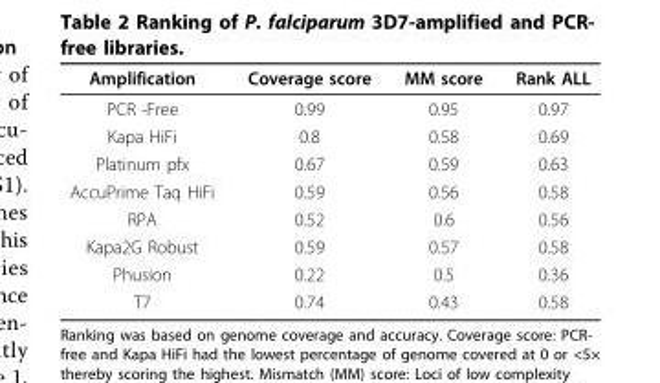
<table><thead><tr><td>Amplification</td><td>Coverage score</td><td>MM score</td><td>Rank ALL</td></tr></thead><tbody><tr><td>PCR -Free</td><td>0.99</td><td>0.95</td><td>0.97</td></tr><tr><td>Kapa HiFi</td><td>0.8</td><td>0.58</td><td>0.69</td></tr><tr><td>Platinum pfx</td><td>0.67</td><td>0.59</td><td>0.63</td></tr><tr><td>AccuPrime Taq HiFi</td><td>0.59</td><td>0.56</td><td>0.58</td></tr><tr><td>RPA</td><td>0.52</td><td>0.6</td><td>0.56</td></tr><tr><td>Kapa2G Robust</td><td>0.59</td><td>0.57</td><td>0.58</td></tr><tr><td>Phusion</td><td>0.22</td><td>0.5</td><td>0.36</td></tr><tr><td>T7</td><td>0.74</td><td>0.43</td><td>0.58</td></tr></tbody></table>